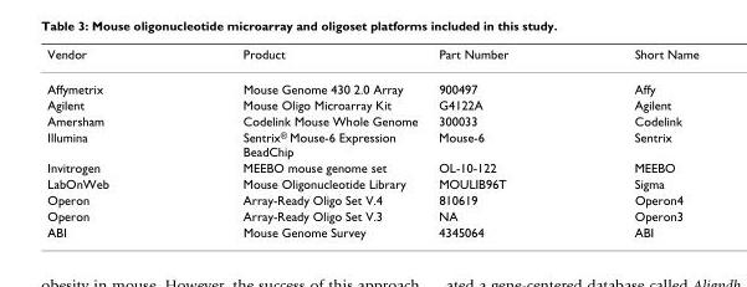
<table><thead><tr><td>Vendor</td><td>Product</td><td>Part Number</td><td>Short Name</td></tr></thead><tbody><tr><td>Affymetrix</td><td>Mouse Genome 430 2.0 Array</td><td>900497</td><td>Affy</td></tr><tr><td>Agilent</td><td>Mouse Oligo Microarray Kit</td><td>G4122A</td><td>Agilent</td></tr><tr><td>Amersham</td><td>Codelink Mouse Whole Genome</td><td>300033</td><td>Codelink</td></tr><tr><td>Illumina</td><td>Sentrix® Mouse-6 Expression BeadChip</td><td>Mouse-6</td><td>Sentrix</td></tr><tr><td>Invitrogen</td><td>MEEBO mouse genome set</td><td>OL-10-122</td><td>MEEBO</td></tr><tr><td>LabOnWeb</td><td>Mouse Oligonucleotide Library</td><td>MOULIB96T</td><td>Sigma</td></tr><tr><td>Operon</td><td>Array-Ready Oligo Set V.4</td><td>810619</td><td>Operon4</td></tr><tr><td>Operon</td><td>Array-Ready Oligo Set V.3</td><td>NA</td><td>Operon3</td></tr><tr><td>ABI</td><td>Mouse Genome Survey</td><td>4345064</td><td>ABI</td></tr></tbody></table>